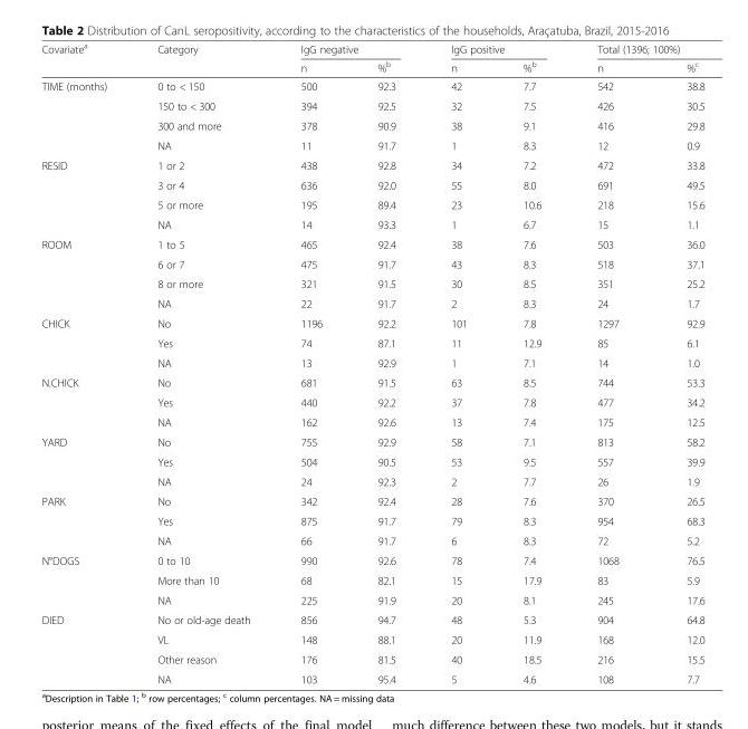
<table><thead><tr><td rowspan="2">Covariate<sup>a</sup></td><td rowspan="2">Category</td><td colspan="2">IgG negative</td><td colspan="2">IgG positive</td><td colspan="2">Total (1396; 100%)</td></tr><tr><td>n</td><td>%<sup>b</sup></td><td>n</td><td>%<sup>b</sup></td><td>n</td><td>%<sup>c</sup></td></tr></thead><tbody><tr><td rowspan="4">TIME (months)</td><td>0 to &lt; 150</td><td>500</td><td>92.3</td><td>42</td><td>7.7</td><td>542</td><td>38.8</td></tr><tr><td>150 to &lt; 300</td><td>394</td><td>92.5</td><td>32</td><td>7.5</td><td>426</td><td>30.5</td></tr><tr><td>300 and more</td><td>378</td><td>90.9</td><td>38</td><td>9.1</td><td>416</td><td>29.8</td></tr><tr><td>NA</td><td>11</td><td>91.7</td><td>1</td><td>8.3</td><td>12</td><td>0.9</td></tr><tr><td rowspan="4">RESID</td><td>1 or 2</td><td>438</td><td>92.8</td><td>34</td><td>7.2</td><td>472</td><td>33.8</td></tr><tr><td>3 or 4</td><td>636</td><td>92.0</td><td>55</td><td>8.0</td><td>691</td><td>49.5</td></tr><tr><td>5 or more</td><td>195</td><td>89.4</td><td>23</td><td>10.6</td><td>218</td><td>15.6</td></tr><tr><td>NA</td><td>14</td><td>93.3</td><td>1</td><td>6.7</td><td>15</td><td>1.1</td></tr><tr><td rowspan="4">ROOM</td><td>1 to 5</td><td>465</td><td>92.4</td><td>38</td><td>7.6</td><td>503</td><td>36.0</td></tr><tr><td>6 or 7</td><td>475</td><td>91.7</td><td>43</td><td>8.3</td><td>518</td><td>37.1</td></tr><tr><td>8 or more</td><td>321</td><td>91.5</td><td>30</td><td>8.5</td><td>351</td><td>25.2</td></tr><tr><td>NA</td><td>22</td><td>91.7</td><td>2</td><td>8.3</td><td>24</td><td>1.7</td></tr><tr><td rowspan="3">CHICK</td><td>No</td><td>1196</td><td>92.2</td><td>101</td><td>7.8</td><td>1297</td><td>92.9</td></tr><tr><td>Yes</td><td>74</td><td>87.1</td><td>11</td><td>12.9</td><td>85</td><td>6.1</td></tr><tr><td>NA</td><td>13</td><td>92.9</td><td>1</td><td>7.1</td><td>14</td><td>1.0</td></tr><tr><td rowspan="3">N.CHICK</td><td>No</td><td>681</td><td>91.5</td><td>63</td><td>8.5</td><td>744</td><td>53.3</td></tr><tr><td>Yes</td><td>440</td><td>92.2</td><td>37</td><td>7.8</td><td>477</td><td>34.2</td></tr><tr><td>NA</td><td>162</td><td>92.6</td><td>13</td><td>7.4</td><td>175</td><td>12.5</td></tr><tr><td rowspan="3">YARD</td><td>No</td><td>755</td><td>92.9</td><td>58</td><td>7.1</td><td>813</td><td>58.2</td></tr><tr><td>Yes</td><td>504</td><td>90.5</td><td>53</td><td>9.5</td><td>557</td><td>39.9</td></tr><tr><td>NA</td><td>24</td><td>92.3</td><td>2</td><td>7.7</td><td>26</td><td>1.9</td></tr><tr><td rowspan="3">PARK</td><td>No</td><td>342</td><td>92.4</td><td>28</td><td>7.6</td><td>370</td><td>26.5</td></tr><tr><td>Yes</td><td>875</td><td>91.7</td><td>79</td><td>8.3</td><td>954</td><td>68.3</td></tr><tr><td>NA</td><td>66</td><td>91.7</td><td>6</td><td>8.3</td><td>72</td><td>5.2</td></tr><tr><td rowspan="3">N°DOGS</td><td>0 to 10</td><td>990</td><td>92.6</td><td>78</td><td>7.4</td><td>1068</td><td>76.5</td></tr><tr><td>More than 10</td><td>68</td><td>82.1</td><td>15</td><td>17.9</td><td>83</td><td>5.9</td></tr><tr><td>NA</td><td>225</td><td>91.9</td><td>20</td><td>8.1</td><td>245</td><td>17.6</td></tr><tr><td rowspan="4">DIED</td><td>No or old-age death</td><td>856</td><td>94.7</td><td>48</td><td>5.3</td><td>904</td><td>64.8</td></tr><tr><td>VL</td><td>148</td><td>88.1</td><td>20</td><td>11.9</td><td>168</td><td>12.0</td></tr><tr><td>Other reason</td><td>176</td><td>81.5</td><td>40</td><td>18.5</td><td>216</td><td>15.5</td></tr><tr><td>NA</td><td>103</td><td>95.4</td><td>5</td><td>4.6</td><td>108</td><td>7.7</td></tr></tbody></table>